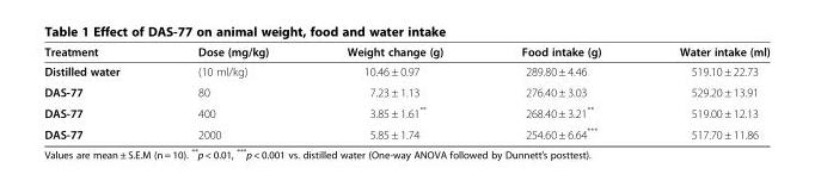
<table><thead><tr><td>Treatment</td><td>Dose (mg/kg)</td><td>Weight change (g)</td><td>Food intake (g)</td><td>Water intake (ml)</td></tr></thead><tbody><tr><td>Distilled water</td><td>(10 ml/kg)</td><td>10.46 ± 0.97</td><td>289.80 ± 4.46</td><td>519.10 ± 22.73</td></tr><tr><td>DAS-77</td><td>80</td><td>7.23 ± 1.13</td><td>276.40 ± 3.03</td><td>529.20 ± 13.91</td></tr><tr><td>DAS-77</td><td>400</td><td>3.85 ± 1.61**</td><td>268.40 ± 3.21**</td><td>519.00 ± 12.13</td></tr><tr><td>DAS-77</td><td>2000</td><td>5.85 ± 1.74</td><td>254.60 ± 6.64***</td><td>517.70 ± 11.86</td></tr></tbody></table>